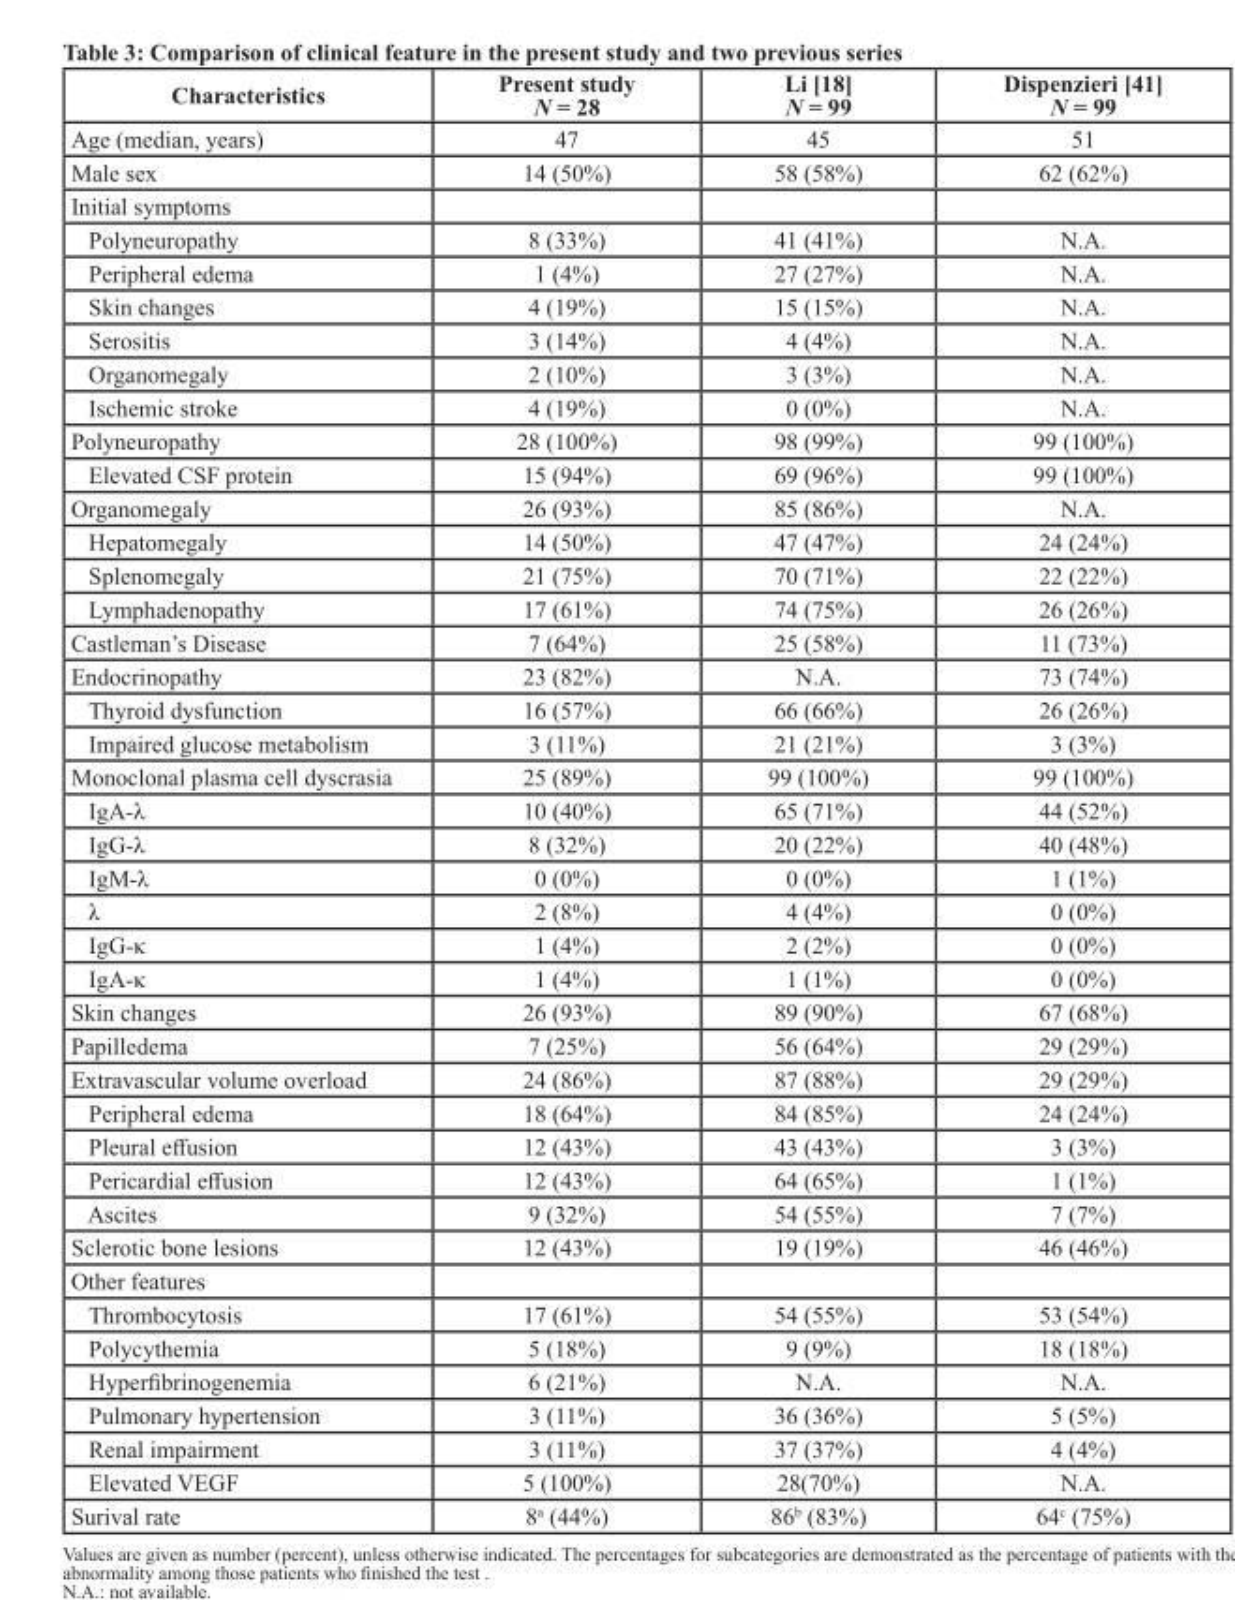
<table><thead><tr><td>Characteristics</td><td>Present study N = 28</td><td>Li [18] N = 99</td><td>Dispenzieri [41] N = 99</td></tr></thead><tbody><tr><td>Age (median, years)</td><td>47</td><td>45</td><td>51</td></tr><tr><td>Male sex</td><td>14 (50%)</td><td>58 (58%)</td><td>62 (62%)</td></tr><tr><td colspan="4">Initial symptoms</td></tr><tr><td>Polyneuropathy</td><td>8 (33%)</td><td>41 (41%)</td><td>N.A.</td></tr><tr><td>Peripheral edema</td><td>1 (4%)</td><td>27 (27%)</td><td>N.A.</td></tr><tr><td>Skin changes</td><td>4 (19%)</td><td>15 (15%)</td><td>N.A.</td></tr><tr><td>Serositis</td><td>3 (14%)</td><td>4 (4%)</td><td>N.A.</td></tr><tr><td>Organomegaly</td><td>2 (10%)</td><td>3 (3%)</td><td>N.A.</td></tr><tr><td>Ischemic stroke</td><td>4 (19%)</td><td>0 (0%)</td><td>N.A.</td></tr><tr><td>Polyneuropathy</td><td>28 (100%)</td><td>98 (99%)</td><td>99 (100%)</td></tr><tr><td>Elevated CSF protein</td><td>15 (94%)</td><td>69 (96%)</td><td>99 (100%)</td></tr><tr><td>Organomegaly</td><td>26 (93%)</td><td>85 (86%)</td><td>N.A.</td></tr><tr><td>Hepatomegaly</td><td>14 (50%)</td><td>47 (47%)</td><td>24 (24%)</td></tr><tr><td>Splenomegaly</td><td>21 (75%)</td><td>70 (71%)</td><td>22 (22%)</td></tr><tr><td>Lymphadenopathy</td><td>17 (61%)</td><td>74 (75%)</td><td>26 (26%)</td></tr><tr><td>Castleman’s Disease</td><td>7 (64%)</td><td>25 (58%)</td><td>11 (73%)</td></tr><tr><td>Endocrinopathy</td><td>23 (82%)</td><td>N.A.</td><td>73 (74%)</td></tr><tr><td>Thyroid dysfunction</td><td>16 (57%)</td><td>66 (66%)</td><td>26 (26%)</td></tr><tr><td>Impaired glucose metabolism</td><td>3 (11%)</td><td>21 (21%)</td><td>3 (3%)</td></tr><tr><td>Monoclonal plasma cell dyscrasia</td><td>25 (89%)</td><td>99 (100%)</td><td>99 (100%)</td></tr><tr><td>IgA-λ</td><td>10 (40%)</td><td>65 (71%)</td><td>44 (52%)</td></tr><tr><td>IgG-λ</td><td>8 (32%)</td><td>20 (22%)</td><td>40 (48%)</td></tr><tr><td>IgM-λ</td><td>0 (0%)</td><td>0 (0%)</td><td>1 (1%)</td></tr><tr><td>λ</td><td>2 (8%)</td><td>4 (4%)</td><td>0 (0%)</td></tr><tr><td>IgG-κ</td><td>1 (4%)</td><td>2 (2%)</td><td>0 (0%)</td></tr><tr><td>IgA-κ</td><td>1 (4%)</td><td>1 (1%)</td><td>0 (0%)</td></tr><tr><td>Skin changes</td><td>26 (93%)</td><td>89 (90%)</td><td>67 (68%)</td></tr><tr><td>Papilledema</td><td>7 (25%)</td><td>56 (64%)</td><td>29 (29%)</td></tr><tr><td>Extravascular volume overload</td><td>24 (86%)</td><td>87 (88%)</td><td>29 (29%)</td></tr><tr><td>Peripheral edema</td><td>18 (64%)</td><td>84 (85%)</td><td>24 (24%)</td></tr><tr><td>Pleural effusion</td><td>12 (43%)</td><td>43 (43%)</td><td>3 (3%)</td></tr><tr><td>Pericardial effusion</td><td>12 (43%)</td><td>64 (65%)</td><td>1 (1%)</td></tr><tr><td>Ascites</td><td>9 (32%)</td><td>54 (55%)</td><td>7 (7%)</td></tr><tr><td>Sclerotic bone lesions</td><td>12 (43%)</td><td>19 (19%)</td><td>46 (46%)</td></tr><tr><td colspan="4">Other features</td></tr><tr><td>Thrombocytosis</td><td>17 (61%)</td><td>54 (55%)</td><td>53 (54%)</td></tr><tr><td>Polycythemia</td><td>5 (18%)</td><td>9 (9%)</td><td>18 (18%)</td></tr><tr><td>Hyperfibrinogenemia</td><td>6 (21%)</td><td>N.A.</td><td>N.A.</td></tr><tr><td>Pulmonary hypertension</td><td>3 (11%)</td><td>36 (36%)</td><td>5 (5%)</td></tr><tr><td>Renal impairment</td><td>3 (11%)</td><td>37 (37%)</td><td>4 (4%)</td></tr><tr><td>Elevated VEGF</td><td>5 (100%)</td><td>28(70%)</td><td>N.A.</td></tr><tr><td>Surival rate</td><td>8<sup>a</sup> (44%)</td><td>86<sup>b</sup> (83%)</td><td>64<sup>c</sup> (75%)</td></tr></tbody></table>